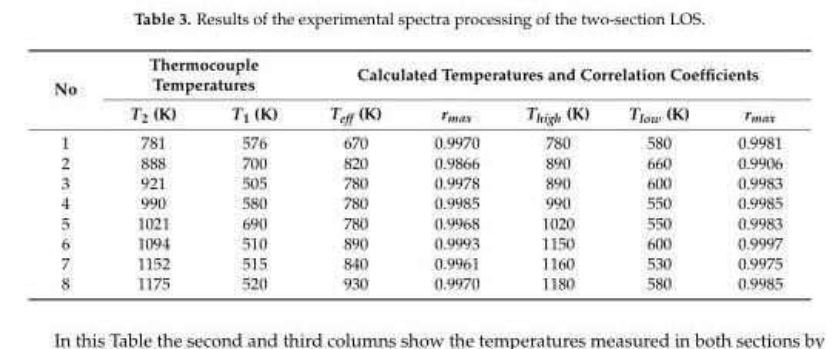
<table><thead><tr><td rowspan="2">No</td><td colspan="2">Thermocouple Temperatures</td><td colspan="5">Calculated Temperatures and Correlation Coefficients</td></tr><tr><td>T<sub>2</sub> (K)</td><td>T<sub>1</sub> (K)</td><td>T<sub>eff</sub> (K)</td><td>r<sub>max</sub></td><td>T<sub>high</sub> (K)</td><td>T<sub>low</sub> (K)</td><td>r<sub>max</sub></td></tr></thead><tbody><tr><td>1</td><td>781</td><td>576</td><td>670</td><td>0.9970</td><td>780</td><td>580</td><td>0.9981</td></tr><tr><td>2</td><td>888</td><td>700</td><td>820</td><td>0.9866</td><td>890</td><td>660</td><td>0.9906</td></tr><tr><td>3</td><td>921</td><td>505</td><td>780</td><td>0.9978</td><td>890</td><td>600</td><td>0.9983</td></tr><tr><td>4</td><td>990</td><td>580</td><td>780</td><td>0.9985</td><td>990</td><td>550</td><td>0.9985</td></tr><tr><td>5</td><td>1021</td><td>690</td><td>780</td><td>0.9968</td><td>1020</td><td>550</td><td>0.9983</td></tr><tr><td>6</td><td>1094</td><td>510</td><td>890</td><td>0.9993</td><td>1150</td><td>600</td><td>0.9997</td></tr><tr><td>7</td><td>1152</td><td>515</td><td>840</td><td>0.9961</td><td>1160</td><td>530</td><td>0.9975</td></tr><tr><td>8</td><td>1175</td><td>520</td><td>930</td><td>0.9970</td><td>1180</td><td>580</td><td>0.9985</td></tr></tbody></table>